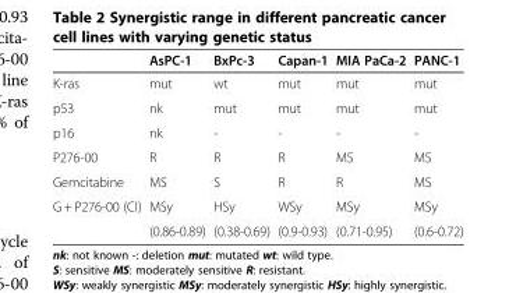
<table><thead><tr><td></td><td>AsPC-1</td><td>BxPc-3</td><td>Capan-1</td><td>MIA PaCa-2</td><td>PANC-1</td></tr></thead><tbody><tr><td>K-ras</td><td>mut</td><td>wt</td><td>mut</td><td>mut</td><td>mut</td></tr><tr><td>p53</td><td>nk</td><td>mut</td><td>mut</td><td>mut</td><td>mut</td></tr><tr><td>p16</td><td>nk</td><td>-</td><td>-</td><td>-</td><td>-</td></tr><tr><td>P276-00</td><td>R</td><td>R</td><td>R</td><td>MS</td><td>MS</td></tr><tr><td>Gemcitabine</td><td>MS</td><td>S</td><td>R</td><td>R</td><td>MS</td></tr><tr><td rowspan="2">G + P276-00 (CI)</td><td>MSy</td><td>HSy</td><td>WSy</td><td>MSy</td><td>MSy</td></tr><tr><td>(0.86-0.89)</td><td>(0.38-0.69)</td><td>(0.9-0.93)</td><td>(0.71-0.95)</td><td>(0.6-0.72)</td></tr></tbody></table>